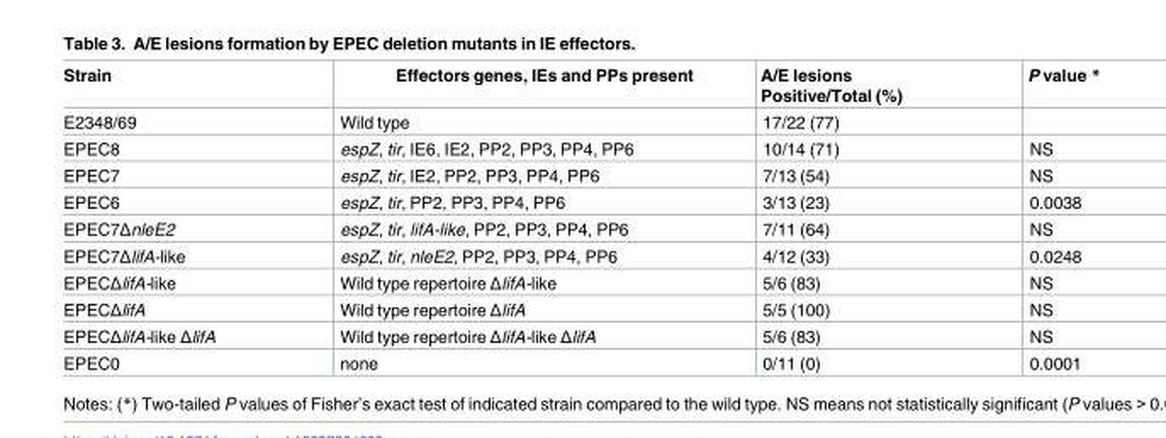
<table><thead><tr><td>Strain</td><td>Effectors genes, IEs and PPs present</td><td>A/E lesions Positive/Total (%)</td><td>P value *</td></tr></thead><tbody><tr><td>E2348/69</td><td>Wild type</td><td>17/22 (77)</td><td></td></tr><tr><td>EPEC8</td><td>espZ, tir, IE6, IE2, PP2, PP3, PP4, PP6</td><td>10/14 (71)</td><td>NS</td></tr><tr><td>EPEC7</td><td>espZ, tir, IE2, PP2, PP3, PP4, PP6</td><td>7/13 (54)</td><td>NS</td></tr><tr><td>EPEC6</td><td>espZ, tir, PP2, PP3, PP4, PP6</td><td>3/13 (23)</td><td>0.0038</td></tr><tr><td>EPEC7ΔnleE2</td><td>espZ, tir, lifA-like, PP2, PP3, PP4, PP6</td><td>7/11 (64)</td><td>NS</td></tr><tr><td>EPEC7ΔlifA-like</td><td>espZ, tir, nleE2, PP2, PP3, PP4, PP6</td><td>4/12 (33)</td><td>0.0248</td></tr><tr><td>EPECΔlifA-like</td><td>Wild type repertoire ΔlifA-like</td><td>5/6 (83)</td><td>NS</td></tr><tr><td>EPECΔlifA</td><td>Wild type repertoire ΔlifA</td><td>5/5 (100)</td><td>NS</td></tr><tr><td>EPECΔlifA-like ΔlifA</td><td>Wild type repertoire ΔlifA-like ΔlifA</td><td>5/6 (83)</td><td>NS</td></tr><tr><td>EPEC0</td><td>none</td><td>0/11 (0)</td><td>0.0001</td></tr></tbody></table>